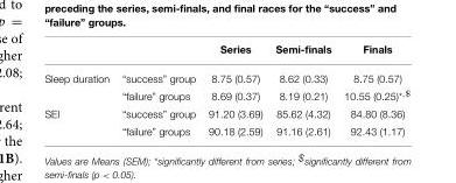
<table><thead><tr><td></td><td></td><td>Series</td><td>Semi-finals</td><td>Finals</td></tr></thead><tbody><tr><td rowspan="2">Sleep duration</td><td>“success” group</td><td>8.75 (0.57)</td><td>8.62 (0.33)</td><td>8.75 (0.57)</td></tr><tr><td>“failure” groups</td><td>8.69 (0.37)</td><td>8.19 (0.21)</td><td>10.55 (0.25)*,<sup>$</sup></td></tr><tr><td rowspan="2">SEI</td><td>“success” group</td><td>91.20 (3.69)</td><td>85.62 (4.32)</td><td>84.80 (8.36)</td></tr><tr><td>“failure” groups</td><td>90.18 (2.59)</td><td>91.16 (2.61)</td><td>92.43 (1.17)</td></tr></tbody></table>